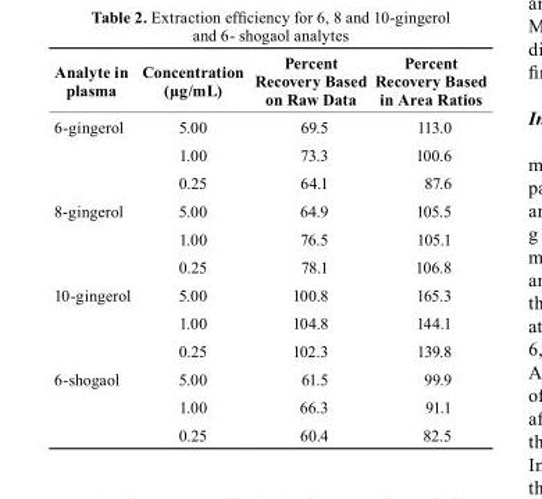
<table><thead><tr><td>Analyte in plasma</td><td>concentration (µg/mL)</td><td>Percent recovery based on raw data</td><td>Percent recovery based in Area ratios</td></tr></thead><tbody><tr><td rowspan="3">6-gingerol</td><td>5.00</td><td>69.5</td><td>113.0</td></tr><tr><td>1.00</td><td>73.3</td><td>100.6</td></tr><tr><td>0.25</td><td>64.1</td><td>87.6</td></tr><tr><td rowspan="3">8-gingerol</td><td>5.00</td><td>64.9</td><td>105.5</td></tr><tr><td>1.00</td><td>76.5</td><td>105.1</td></tr><tr><td>0.25</td><td>78.1</td><td>106.8</td></tr><tr><td rowspan="3">10-gingerol</td><td>5.00</td><td>100.8</td><td>165.3</td></tr><tr><td>1.00</td><td>104.8</td><td>144.1</td></tr><tr><td>0.25</td><td>102.3</td><td>139.8</td></tr><tr><td rowspan="3">6-shogaol</td><td>5.00</td><td>61.5</td><td>99.9</td></tr><tr><td>1.00</td><td>66.3</td><td>91.1</td></tr><tr><td>0.25</td><td>60.4</td><td>82.5</td></tr></tbody></table>